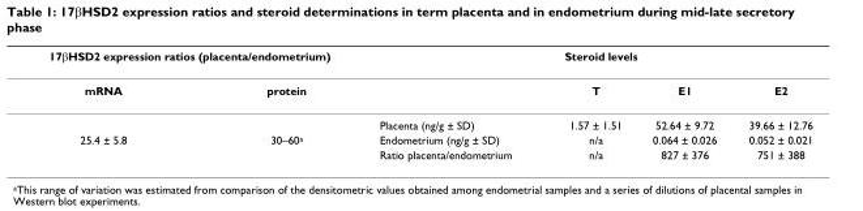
<table><thead><tr><td colspan="2">17βHSD2 expression ratios (placenta/endometrium)</td><td colspan="4">Steroid levels</td></tr><tr><td>mRNA</td><td>protein</td><td></td><td>T</td><td>E1</td><td>E2</td></tr></thead><tbody><tr><td></td><td></td><td>Placenta (ng/g ± SD)</td><td>1.57 ± 1.51</td><td>52.64 ± 9.72</td><td>39.66 ± 12.76</td></tr><tr><td rowspan="2">25.4 ± 5.8</td><td>30–60<sup>a</sup></td><td>Endometrium (ng/g ± SD)</td><td>n/a</td><td>0.064 ± 0.026</td><td>0.052 ± 0.021</td></tr><tr><td></td><td>Ratio placenta/endometrium</td><td>n/a</td><td>827 ± 376</td><td>751 ± 388</td></tr></tbody></table>